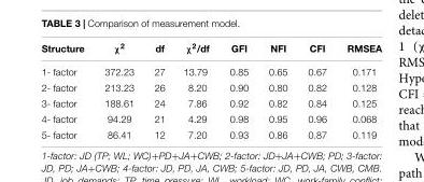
<table><thead><tr><td>Structure</td><td>χ<sup>2</sup></td><td>df</td><td>χ<sup>2</sup>/df</td><td>GFI</td><td>NFI</td><td>CFI</td><td>RMSEA</td></tr></thead><tbody><tr><td>1- factor</td><td>372.23</td><td>27</td><td>13.79</td><td>0.85</td><td>0.65</td><td>0.67</td><td>0.171</td></tr><tr><td>2- factor</td><td>213.23</td><td>26</td><td>8.20</td><td>0.90</td><td>0.80</td><td>0.82</td><td>0.128</td></tr><tr><td>3- factor</td><td>188.61</td><td>24</td><td>7.86</td><td>0.92</td><td>0.82</td><td>0.84</td><td>0.125</td></tr><tr><td>4- factor</td><td>94.29</td><td>21</td><td>4.29</td><td>0.98</td><td>0.95</td><td>0.96</td><td>0.068</td></tr><tr><td>5- factor</td><td>86.41</td><td>12</td><td>7.20</td><td>0.93</td><td>0.86</td><td>0.87</td><td>0.119</td></tr></tbody></table>